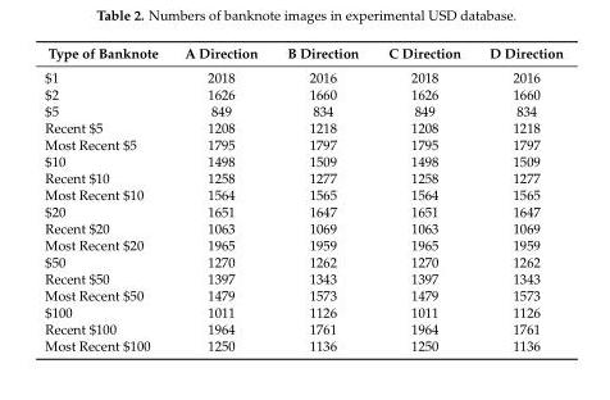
<table><thead><tr><td>Type of Banknote</td><td>A Direction</td><td>B Direction</td><td>C Direction</td><td>D Direction</td></tr></thead><tbody><tr><td>$1</td><td>2018</td><td>2016</td><td>2018</td><td>2016</td></tr><tr><td>$2</td><td>1626</td><td>1660</td><td>1626</td><td>1660</td></tr><tr><td>$5</td><td>849</td><td>834</td><td>849</td><td>834</td></tr><tr><td>Recent $5</td><td>1208</td><td>1218</td><td>1208</td><td>1218</td></tr><tr><td>Most Recent $5</td><td>1795</td><td>1797</td><td>1795</td><td>1797</td></tr><tr><td>$10</td><td>1498</td><td>1509</td><td>1498</td><td>1509</td></tr><tr><td>Recent $10</td><td>1258</td><td>1277</td><td>1258</td><td>1277</td></tr><tr><td>Most Recent $10</td><td>1564</td><td>1565</td><td>1564</td><td>1565</td></tr><tr><td>$20</td><td>1651</td><td>1647</td><td>1651</td><td>1647</td></tr><tr><td>Recent $20</td><td>1063</td><td>1069</td><td>1063</td><td>1069</td></tr><tr><td>Most Recent $20</td><td>1965</td><td>1959</td><td>1965</td><td>1959</td></tr><tr><td>$50</td><td>1270</td><td>1262</td><td>1270</td><td>1262</td></tr><tr><td>Recent $50</td><td>1397</td><td>1343</td><td>1397</td><td>1343</td></tr><tr><td>Most Recent $50</td><td>1479</td><td>1573</td><td>1479</td><td>1573</td></tr><tr><td>$100</td><td>1011</td><td>1126</td><td>1011</td><td>1126</td></tr><tr><td>Recent $100</td><td>1964</td><td>1761</td><td>1964</td><td>1761</td></tr><tr><td>Most Recent $100</td><td>1250</td><td>1136</td><td>1250</td><td>1136</td></tr></tbody></table>